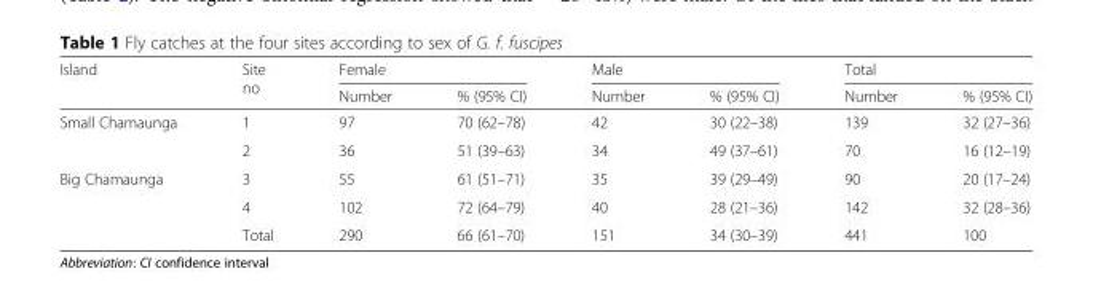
<table><thead><tr><td rowspan="2">Island</td><td rowspan="2">Site no</td><td colspan="2">Female</td><td colspan="2">Male</td><td colspan="2">Total</td></tr><tr><td>Number</td><td>% (95% CI)</td><td>Number</td><td>% (95% CI)</td><td>Number</td><td>% (95% CI)</td></tr></thead><tbody><tr><td rowspan="2">Small Chamaunga</td><td>1</td><td>97</td><td>70 (62–78)</td><td>42</td><td>30 (22–38)</td><td>139</td><td>32 (27–36)</td></tr><tr><td>2</td><td>36</td><td>51 (39–63)</td><td>34</td><td>49 (37–61)</td><td>70</td><td>16 (12–19)</td></tr><tr><td rowspan="3">Big Chamaunga</td><td>3</td><td>55</td><td>61 (51–71)</td><td>35</td><td>39 (29–49)</td><td>90</td><td>20 (17–24)</td></tr><tr><td>4</td><td>102</td><td>72 (64–79)</td><td>40</td><td>28 (21–36)</td><td>142</td><td>32 (28–36)</td></tr><tr><td>Total</td><td>290</td><td>66 (61–70)</td><td>151</td><td>34 (30–39)</td><td>441</td><td>100</td></tr></tbody></table>